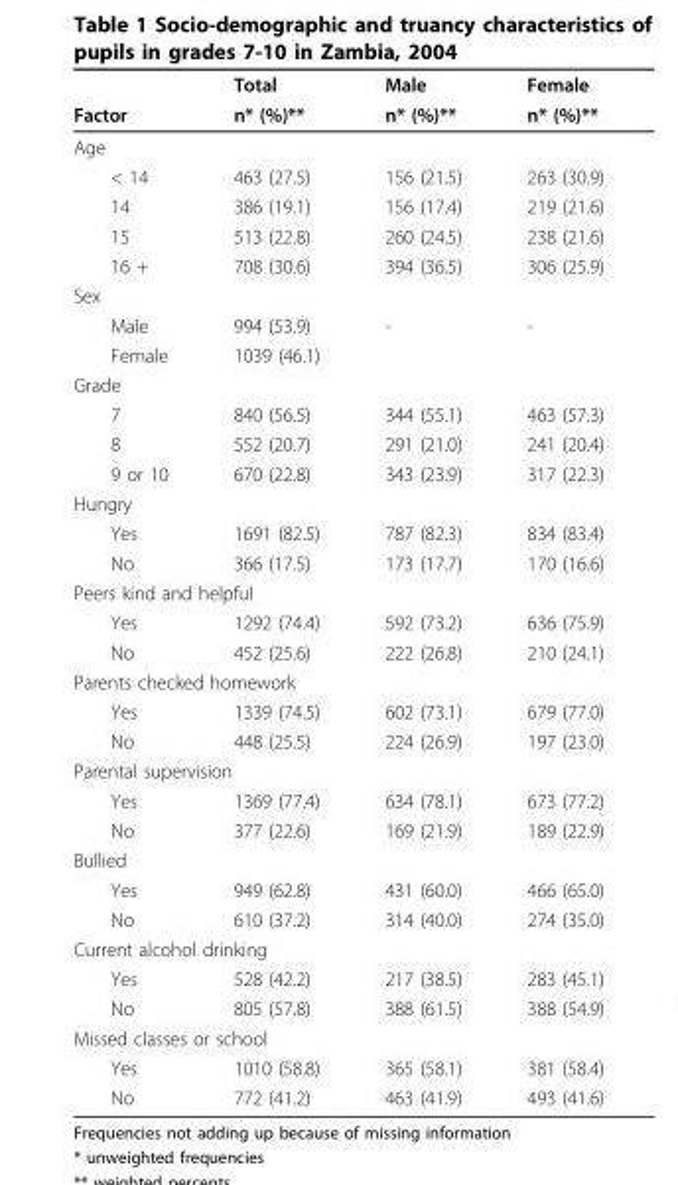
<table><thead><tr><td rowspan="2">Factor</td><td rowspan="2">Total n* (%)**</td><td rowspan="2">Male n* (%)**</td><td rowspan="2">Female n* (%)**</td></tr><tr></tr></thead><tbody><tr><td colspan="4">Age</td></tr><tr><td>&lt; 14</td><td>463 (27.5)</td><td>156 (21.5)</td><td>263 (30.9)</td></tr><tr><td>14</td><td>386 (19.1)</td><td>156 (17.4)</td><td>219 (21.6)</td></tr><tr><td>15</td><td>513 (22.8)</td><td>260 (24.5)</td><td>238 (21.6)</td></tr><tr><td>16 +</td><td>708 (30.6)</td><td>394 (36.5)</td><td>306 (25.9)</td></tr><tr><td colspan="4">Sex</td></tr><tr><td>Male</td><td>994 (53.9)</td><td>-</td><td>-</td></tr><tr><td>Female</td><td>1039 (46.1)</td><td></td><td></td></tr><tr><td colspan="4">Grade</td></tr><tr><td>7</td><td>840 (56.5)</td><td>344 (55.1)</td><td>463 (57.3)</td></tr><tr><td>8</td><td>552 (20.7)</td><td>291 (21.0)</td><td>241 (20.4)</td></tr><tr><td>9 or 10</td><td>670 (22.8)</td><td>343 (23.9)</td><td>317 (22.3)</td></tr><tr><td colspan="4">Hungry</td></tr><tr><td>Yes</td><td>1691 (82.5)</td><td>787 (82.3)</td><td>834 (83.4)</td></tr><tr><td>No</td><td>366 (17.5)</td><td>173 (17.7)</td><td>170 (16.6)</td></tr><tr><td colspan="4">Peers kind and helpful</td></tr><tr><td>Yes</td><td>1292 (74.4)</td><td>592 (73.2)</td><td>636 (75.9)</td></tr><tr><td>No</td><td>452 (25.6)</td><td>222 (26.8)</td><td>210 (24.1)</td></tr><tr><td colspan="4">Parents checked homework</td></tr><tr><td>Yes</td><td>1339 (74.5)</td><td>602 (73.1)</td><td>679 (77.0)</td></tr><tr><td>No</td><td>448 (25.5)</td><td>224 (26.9)</td><td>197 (23.0)</td></tr><tr><td colspan="4">Parental supervision</td></tr><tr><td>Yes</td><td>1369 (77.4)</td><td>634 (78.1)</td><td>673 (77.2)</td></tr><tr><td>No</td><td>377 (22.6)</td><td>169 (21.9)</td><td>189 (22.9)</td></tr><tr><td colspan="4">Bullied</td></tr><tr><td>Yes</td><td>949 (62.8)</td><td>431 (60.0)</td><td>466 (65.0)</td></tr><tr><td>No</td><td>610 (37.2)</td><td>314 (40.0)</td><td>274 (35.0)</td></tr><tr><td colspan="4">Current alcohol drinking</td></tr><tr><td>Yes</td><td>528 (42.2)</td><td>217 (38.5)</td><td>283 (45.1)</td></tr><tr><td>No</td><td>805 (57.8)</td><td>388 (61.5)</td><td>388 (54.9)</td></tr><tr><td colspan="4">Missed classes or school</td></tr><tr><td>Yes</td><td>1010 (58.8)</td><td>365 (58.1)</td><td>381 (58.4)</td></tr><tr><td>No</td><td>772 (41.2)</td><td>463 (41.9)</td><td>493 (41.6)</td></tr></tbody></table>